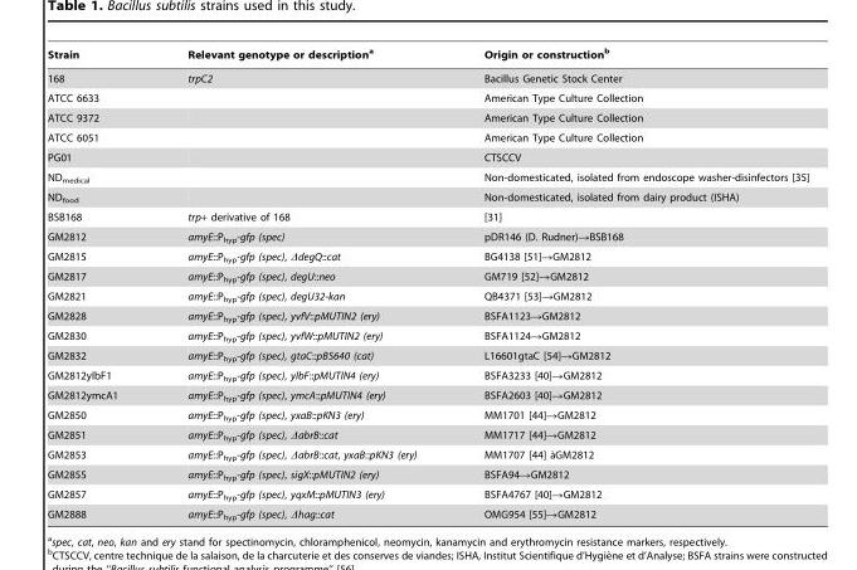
<table><thead><tr><td>Strain</td><td>Relevant genotype or description<sup>a</sup></td><td>Origin or construction<sup>b</sup></td></tr></thead><tbody><tr><td>168</td><td>trpC2</td><td>Bacillus Genetic Stock Center</td></tr><tr><td>ATCC 6633</td><td></td><td>American Type Culture Collection</td></tr><tr><td>ATCC 9372</td><td></td><td>American Type Culture Collection</td></tr><tr><td>ATCC 6051</td><td></td><td>American Type Culture Collection</td></tr><tr><td>PG01</td><td></td><td>CTSCCV</td></tr><tr><td>ND<sub>medical</sub></td><td></td><td>Non-domesticated, isolated from endoscope washer-disinfectors [35]</td></tr><tr><td>ND<sub>food</sub></td><td></td><td>Non-domesticated, isolated from dairy product (ISHA)</td></tr><tr><td>BSB168</td><td>trp+ derivative of 168</td><td>[31]</td></tr><tr><td>GM2812</td><td>amyE::P<sub>hyp</sub>-gfp (spec)</td><td>pDR146 (D. Rudner)→BSB168</td></tr><tr><td>GM2815</td><td>amyE::P<sub>hyp</sub>-gfp (spec), ΔdegQ::cat</td><td>BG4138 [51]→GM2812</td></tr><tr><td>GM2817</td><td>amyE::P<sub>hyp</sub>-gfp (spec), degU::neo</td><td>GM719 [52]→GM2812</td></tr><tr><td>GM2821</td><td>amyE::P<sub>hyp</sub>-gfp (spec), degU32-kan</td><td>QB4371 [53]→GM2812</td></tr><tr><td>GM2828</td><td>amyE::P<sub>hyp</sub>-gfp (spec), yvfV::pMUTIN2 (ery)</td><td>BSFA1123→GM2812</td></tr><tr><td>GM2830</td><td>amyE::P<sub>hyp</sub>-gfp (spec), yvfW::pMUTIN2 (ery)</td><td>BSFA1124→GM2812</td></tr><tr><td>GM2832</td><td>amyE::P<sub>hyp</sub>-gfp (spec), gtaC::pBS640 (cat)</td><td>L16601gtaC [54]→GM2812</td></tr><tr><td>GM2812ylbF1</td><td>amyE::P<sub>hyp</sub>-gfp (spec), ylbF::pMUTIN4 (ery)</td><td>BSFA3233 [40]→GM2812</td></tr><tr><td>GM2812ymcA1</td><td>amyE::P<sub>hyp</sub>-gfp (spec), ymcA::pMUTIN4 (ery)</td><td>BSFA2603 [40]→GM2812</td></tr><tr><td>GM2850</td><td>amyE::P<sub>hyp</sub>-gfp (spec), yxaB::pKN3 (ery)</td><td>MM1701 [44]→GM2812</td></tr><tr><td>GM2851</td><td>amyE::P<sub>hyp</sub>-gfp (spec), ΔabrB::cat</td><td>MM1717 [44]→GM2812</td></tr><tr><td>GM2853</td><td>amyE::P<sub>hyp</sub>-gfp (spec), ΔabrB::cat, yxaB::pKN3 (ery)</td><td>MM1707 [44] a`GM2812</td></tr><tr><td>GM2855</td><td>amyE::P<sub>hyp</sub>-gfp (spec), sigX::pMUTIN2 (ery)</td><td>BSFA94→GM2812</td></tr><tr><td>GM2857</td><td>amyE::P<sub>hyp</sub>-gfp (spec), yqxM::pMUTIN3 (ery)</td><td>BSFA4767 [40]→GM2812</td></tr><tr><td>GM2888</td><td>amyE::P<sub>hyp</sub>-gfp (spec), Δhag::cat</td><td>OMG954 [55]→GM2812</td></tr></tbody></table>